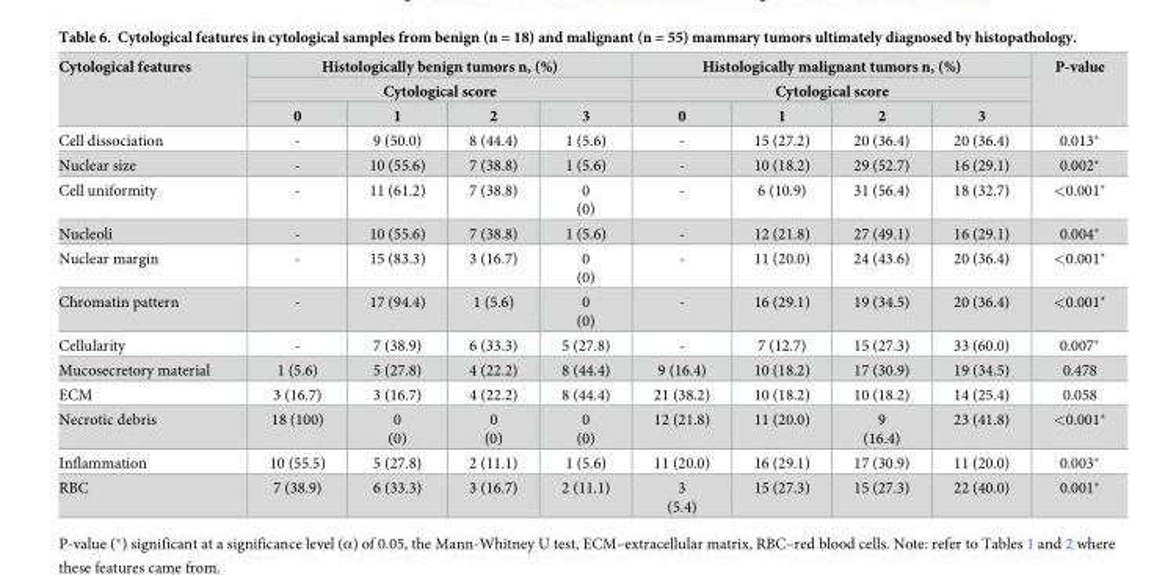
<table><thead><tr><td rowspan="3">Cytological features</td><td rowspan="2" colspan="4">Histologically benign tumors n, (%) Cytological score</td><td rowspan="2" colspan="4">Histologically malignant tumors n, (%) Cytological score</td><td rowspan="3">P-value</td></tr><tr></tr><tr><td>0</td><td>1</td><td>2</td><td>3</td><td>0</td><td>1</td><td>2</td><td>3</td></tr></thead><tbody><tr><td>Cell dissociation</td><td>-</td><td>9 (50.0)</td><td>8 (44.4)</td><td>1 (5.6)</td><td>-</td><td>15 (27.2)</td><td>20 (36.4)</td><td>20 (36.4)</td><td>0.013*</td></tr><tr><td>Nuclear size</td><td>-</td><td>10 (55.6)</td><td>7 (38.8)</td><td>1 (5.6)</td><td>-</td><td>10 (18.2)</td><td>29 (52.7)</td><td>16 (29.1)</td><td>0.002*</td></tr><tr><td>Cell uniformity</td><td>-</td><td>11 (61.2)</td><td>7 (38.8)</td><td>0 (0)</td><td>-</td><td>6 (10.9)</td><td>31 (56.4)</td><td>18 (32.7)</td><td>&lt;0.001*</td></tr><tr><td>Nucleoli</td><td>-</td><td>10 (55.6)</td><td>7 (38.8)</td><td>1 (5.6)</td><td>-</td><td>12 (21.8)</td><td>27 (49.1)</td><td>16 (29.1)</td><td>0.004*</td></tr><tr><td>Nuclear margin</td><td>-</td><td>15 (83.3)</td><td>3 (16.7)</td><td>0 (0)</td><td>-</td><td>11 (20.0)</td><td>24 (43.6)</td><td>20 (36.4)</td><td>&lt;0.001*</td></tr><tr><td>Chromatin pattern</td><td>-</td><td>17 (94.4)</td><td>1 (5.6)</td><td>0 (0)</td><td>-</td><td>16 (29.1)</td><td>19 (34.5)</td><td>20 (36.4)</td><td>&lt;0.001*</td></tr><tr><td>Cellularity</td><td>-</td><td>7 (38.9)</td><td>6 (33.3)</td><td>5 (27.8)</td><td>-</td><td>7 (12.7)</td><td>15 (27.3)</td><td>33 (60.0)</td><td>0.007*</td></tr><tr><td>Mucosecretory material</td><td>1 (5.6)</td><td>5 (27.8)</td><td>4 (22.2)</td><td>8 (44.4)</td><td>9 (16.4)</td><td>10 (18.2)</td><td>17 (30.9)</td><td>19 (34.5)</td><td>0.478</td></tr><tr><td>ECM</td><td>3 (16.7)</td><td>3 (16.7)</td><td>4 (22.2)</td><td>8 (44.4)</td><td>21 (38.2)</td><td>10 (18.2)</td><td>10 (18.2)</td><td>14 (25.4)</td><td>0.058</td></tr><tr><td>Necrotic debris</td><td>18 (100)</td><td>0 (0)</td><td>0 (0)</td><td>0 (0)</td><td>12 (21.8)</td><td>11 (20.0)</td><td>9 (16.4)</td><td>23 (41.8)</td><td>&lt;0.001*</td></tr><tr><td>Inflammation</td><td>10 (55.5)</td><td>5 (27.8)</td><td>2 (11.1)</td><td>1 (5.6)</td><td>11 (20.0)</td><td>16 (29.1)</td><td>17 (30.9)</td><td>11 (20.0)</td><td>0.003*</td></tr><tr><td>RBC</td><td>7 (38.9)</td><td>6 (33.3)</td><td>3 (16.7)</td><td>2 (11.1)</td><td>3 (5.4)</td><td>15 (27.3)</td><td>15 (27.3)</td><td>22 (40.0)</td><td>0.001*</td></tr></tbody></table>